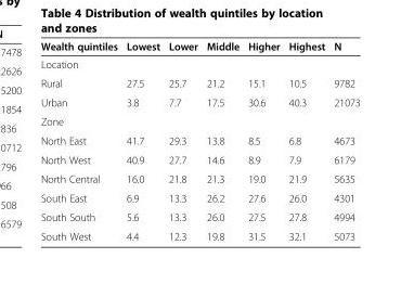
<table><thead><tr><td>Wealth quintiles</td><td>Lowest</td><td>Lower</td><td>Middle</td><td>Higher</td><td>Highest</td><td>N</td></tr></thead><tbody><tr><td colspan="7">Location</td></tr><tr><td>Rural</td><td>27.5</td><td>25.7</td><td>21.2</td><td>15.1</td><td>10.5</td><td>9782</td></tr><tr><td>Urban</td><td>3.8</td><td>7.7</td><td>17.5</td><td>30.6</td><td>40.3</td><td>21073</td></tr><tr><td colspan="7">Zone</td></tr><tr><td>North East</td><td>41.7</td><td>29.3</td><td>13.8</td><td>8.5</td><td>6.8</td><td>4673</td></tr><tr><td>North West</td><td>40.9</td><td>27.7</td><td>14.6</td><td>8.9</td><td>7.9</td><td>6179</td></tr><tr><td>North Central</td><td>16.0</td><td>21.8</td><td>21.3</td><td>19.0</td><td>21.9</td><td>5635</td></tr><tr><td>South East</td><td>6.9</td><td>13.3</td><td>26.2</td><td>27.6</td><td>26.0</td><td>4301</td></tr><tr><td>South South</td><td>5.6</td><td>13.3</td><td>26.0</td><td>27.5</td><td>27.8</td><td>4994</td></tr><tr><td>South West</td><td>4.4</td><td>12.3</td><td>19.8</td><td>31.5</td><td>32.1</td><td>5073</td></tr></tbody></table>